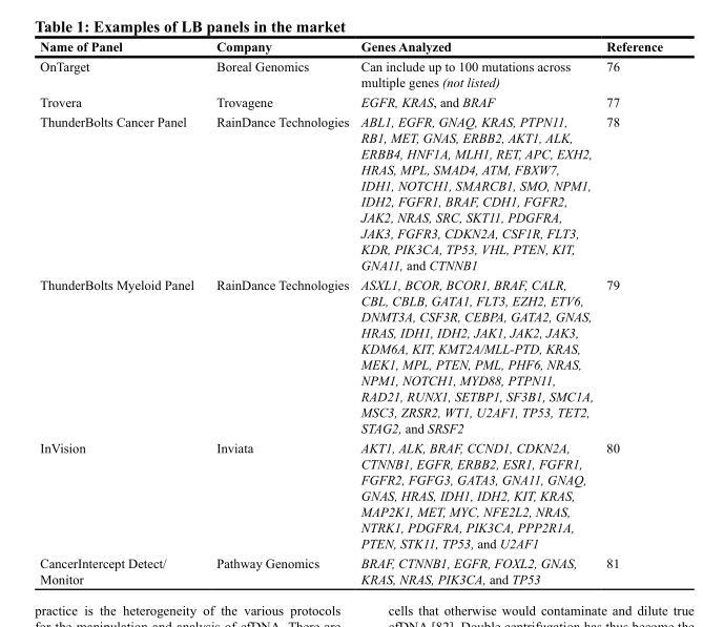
<table><thead><tr><td>Name of Panel</td><td>Company</td><td>Genes Analyzed</td><td>Reference</td></tr></thead><tbody><tr><td>OnTarget</td><td>Boreal Genomics</td><td>Can include up to 100 mutations across multiple genes (not listed)</td><td>76</td></tr><tr><td>Trovera</td><td>Trovagene</td><td>EGFR, KRAS, and BRAF</td><td>77</td></tr><tr><td>ThunderBolts Cancer Panel</td><td>RainDance Technologies</td><td>ABL1, EGFR, GNAQ, KRAS, PTPN11, RB1, MET, GNAS, ERBB2, AKT1, ALK, ERBB4, HNF1A, MLH1, RET, APC, EXH2, HRAS, MPL, SMAD4, ATM, FBXW7, IDH1, NOTCH1, SMARCB1, SMO, NPM1, IDH2, FGFR1, BRAF, CDH1, FGFR2, JAK2, NRAS, SRC, SKT11, PDGFRA, JAK3, FGFR3, CDKN2A, CSF1R, FLT3, KDR, PIK3CA, TP53, VHL, PTEN, KIT, GNA11, and CTNNB1</td><td>78</td></tr><tr><td>ThunderBolts Myeloid Panel</td><td>RainDance Technologies</td><td>ASXL1, BCOR, BCOR1, BRAF, CALR, CBL, CBLB, GATA1, FLT3, EZH2, ETV6, DNMT3A, CSF3R, CEBPA, GATA2, GNAS, HRAS, IDH1, IDH2, JAK1, JAK2, JAK3, KDM6A, KIT, KMT2A/MLL-PTD, KRAS, MEK1, MPL, PTEN, PML, PHF6, NRAS, NPM1, NOTCH1, MYD88, PTPN11, RAD21, RUNX1, SETBP1, SF3B1, SMC1A, MSC3, ZRSR2, WT1, U2AF1, TP53, TET2, STAG2, and SRSF2</td><td>79</td></tr><tr><td>InVision</td><td>Inviata</td><td>AKT1, ALK, BRAF, CCND1, CDKN2A, CTNNB1, EGFR, ERBB2, ESR1, FGFR1, FGFR2, FGFG3, GATA3, GNA11, GNAQ, GNAS, HRAS, IDH1, IDH2, KIT, KRAS, MAP2K1, MET, MYC, NFE2L2, NRAS, NTRK1, PDGFRA, PIK3CA, PPP2R1A, PTEN, STK11, TP53, and U2AF1</td><td>80</td></tr><tr><td>CancerIntercept Detect/ Monitor</td><td>Pathway Genomics</td><td>BRAF, CTNNB1, EGFR, FOXL2, GNAS, KRAS, NRAS, PIK3CA, and TP53</td><td>81</td></tr></tbody></table>